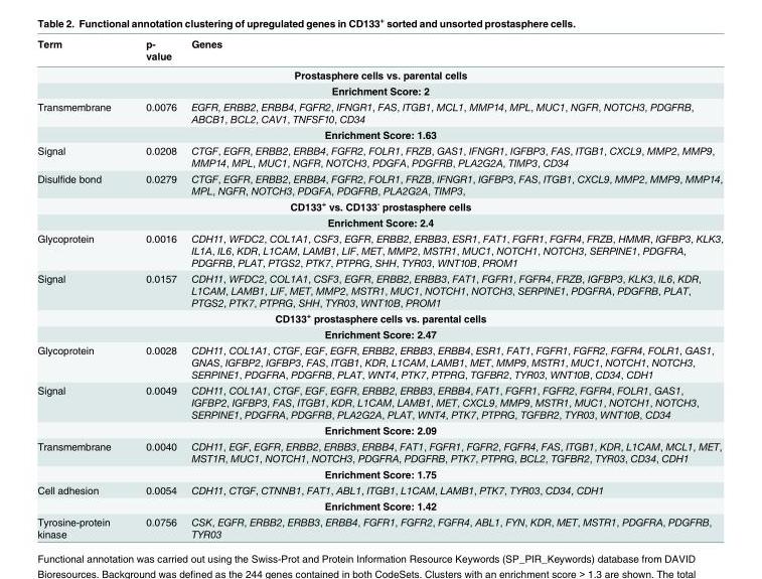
<table><thead><tr><td>Term</td><td>p- value</td><td>Genes</td></tr></thead><tbody><tr><td colspan="3">Prostasphere cells vs. parental cells</td></tr><tr><td colspan="3">Enrichment Score: 2</td></tr><tr><td>Transmembrane</td><td>0.0076</td><td>EGFR, ERBB2, ERBB4, FGFR2, IFNGR1, FAS, ITGB1, MCL1, MMP14, MPL, MUC1, NGFR, NOTCH3, PDGFRB, ABCB1, BCL2, CAV1, TNFSF10, CD34</td></tr><tr><td colspan="3">Enrichment Score: 1.63</td></tr><tr><td>Signal</td><td>0.0208</td><td>CTGF, EGFR, ERBB2, ERBB4, FGFR2, FOLR1, FRZB, GAS1, IFNGR1, IGFBP3, FAS, ITGB1, CXCL9, MMP2, MMP9, MMP14, MPL, MUC1, NGFR, NOTCH3, PDGFA, PDGFRB, PLA2G2A, TIMP3, CD34</td></tr><tr><td>Disulfide bond</td><td>0.0279</td><td>CTGF, EGFR, ERBB2, ERBB4, FGFR2, FOLR1, FRZB, IFNGR1, IGFBP3, FAS, ITGB1, CXCL9, MMP2, MMP9, MMP14, MPL, NGFR, NOTCH3, PDGFA, PDGFRB, PLA2G2A, TIMP3,</td></tr><tr><td colspan="3">CD133<sup>+</sup> vs. CD133<sup>-</sup> prostasphere cells</td></tr><tr><td colspan="3">Enrichment Score: 2.4</td></tr><tr><td>Glycoprotein</td><td>0.0016</td><td>CDH11, WFDC2, COL1A1, CSF3, EGFR, ERBB2, ERBB3, ESR1, FAT1, FGFR1, FGFR4, FRZB, HMMR, IGFBP3, KLK3, IL1A, IL6, KDR, L1CAM, LAMB1, LIF, MET, MMP2, MSTR1, MUC1, NOTCH1, NOTCH3, SERPINE1, PDGFRA, PDGFRB, PLAT, PTGS2, PTK7, PTPRG, SHH, TYR03, WNT10B, PROM1</td></tr><tr><td>Signal</td><td>0.0157</td><td>CDH11, WFDC2, COL1A1, CSF3, EGFR, ERBB2, ERBB3, FAT1, FGFR1, FGFR4, FRZB, IGFBP3, KLK3, IL6, KDR, L1CAM, LAMB1, LIF, MET, MMP2, MSTR1, MUC1, NOTCH1, NOTCH3, SERPINE1, PDGFRA, PDGFRB, PLAT, PTGS2, PTK7, PTPRG, SHH, TYR03, WNT10B, PROM1</td></tr><tr><td colspan="3">CD133<sup>+</sup> prostasphere cells vs. parental cells</td></tr><tr><td colspan="3">Enrichment Score: 2.47</td></tr><tr><td>Glycoprotein</td><td>0.0028</td><td>CDH11, COL1A1, CTGF, EGF, EGFR, ERBB2, ERBB3, ERBB4, ESR1, FAT1, FGFR1, FGFR2, FGFR4, FOLR1, GAS1, GNAS, IGFBP2, IGFBP3, FAS, ITGB1, KDR, L1CAM, LAMB1, MET, MMP9, MSTR1, MUC1, NOTCH1, NOTCH3, SERPINE1, PDGFRA, PDGFRB, PLAT, WNT4, PTK7, PTPRG, TGFBR2, TYR03, WNT10B, CD34, CDH1</td></tr><tr><td>Signal</td><td>0.0049</td><td>CDH11, COL1A1, CTGF, EGF, EGFR, ERBB2, ERBB3, ERBB4, FAT1, FGFR1, FGFR2, FGFR4, FOLR1, GAS1, IGFBP2, IGFBP3, FAS, ITGB1, KDR, L1CAM, LAMB1, MET, CXCL9, MMP9, MSTR1, MUC1, NOTCH1, NOTCH3, SERPINE1, PDGFRA, PDGFRB, PLA2G2A, PLAT, WNT4, PTK7, PTPRG, TGFBR2, TYR03, WNT10B, CD34</td></tr><tr><td colspan="3">Enrichment Score: 2.09</td></tr><tr><td>Transmembrane</td><td>0.0040</td><td>CDH11, EGF, EGFR, ERBB2, ERBB3, ERBB4, FAT1, FGFR1, FGFR2, FGFR4, FAS, ITGB1, KDR, L1CAM, MCL1, MET, MST1R, MUC1, NOTCH1, NOTCH3, PDGFRA, PDGFRB, PTK7, PTPRG, BCL2, TGFBR2, TYR03, CD34, CDH1</td></tr><tr><td colspan="3">Enrichment Score: 1.75</td></tr><tr><td>Cell adhesion</td><td>0.0054</td><td>CDH11, CTGF, CTNNB1, FAT1, ABL1, ITGB1, L1CAM, LAMB1, PTK7, TYR03, CD34, CDH1</td></tr><tr><td colspan="3">Enrichment Score: 1.42</td></tr><tr><td>Tyrosine-protein kinase</td><td>0.0756</td><td>CSK, EGFR, ERBB2, ERBB3, ERBB4, FGFR1, FGFR2, FGFR4, ABL1, FYN, KDR, MET, MSTR1, PDGFRA, PDGFRB, TYR03</td></tr></tbody></table>